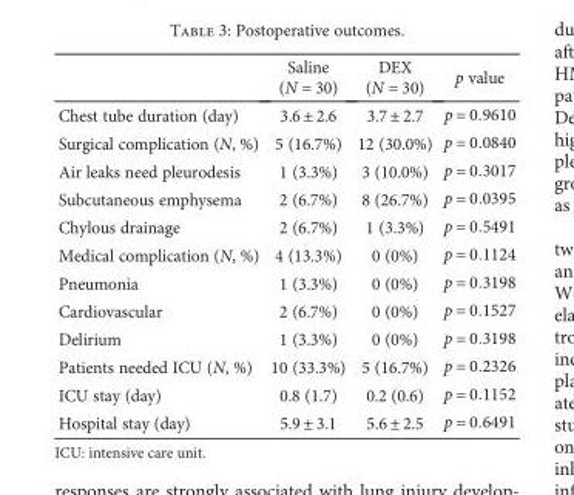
<table><thead><tr><td></td><td>Saline (N = 30)</td><td>DEX (N = 30)</td><td>p value</td></tr></thead><tbody><tr><td>Chest tube duration (day)</td><td>3.6 ± 2.6</td><td>3.7 ± 2.7</td><td>p = 0 9610</td></tr><tr><td>Surgical complication (N, %)</td><td>5 (16.7%)</td><td>12 (30.0%)</td><td>p = 0 0840</td></tr><tr><td>Air leaks need pleurodesis</td><td>1 (3.3%)</td><td>3 (10.0%)</td><td>p = 0 3017</td></tr><tr><td>Subcutaneous emphysema</td><td>2 (6.7%)</td><td>8 (26.7%)</td><td>p = 0 0395</td></tr><tr><td>Chylous drainage</td><td>2 (6.7%)</td><td>1 (3.3%)</td><td>p = 0 5491</td></tr><tr><td>Medical complication (N, %)</td><td>4 (13.3%)</td><td>0 (0%)</td><td>p = 0 1124</td></tr><tr><td>Pneumonia</td><td>1 (3.3%)</td><td>0 (0%)</td><td>p = 0 3198</td></tr><tr><td>Cardiovascular</td><td>2 (6.7%)</td><td>0 (0%)</td><td>p = 0 1527</td></tr><tr><td>Delirium</td><td>1 (3.3%)</td><td>0 (0%)</td><td>p = 0 3198</td></tr><tr><td>Patients needed ICU (N, %)</td><td>10 (33.3%)</td><td>5 (16.7%)</td><td>p = 0 2326</td></tr><tr><td>ICU stay (day)</td><td>0.8 (1.7)</td><td>0.2 (0.6)</td><td>p = 0 1152</td></tr><tr><td>Hospital stay (day)</td><td>5.9 ± 3.1</td><td>5.6 ± 2.5</td><td>p = 0 6491</td></tr></tbody></table>